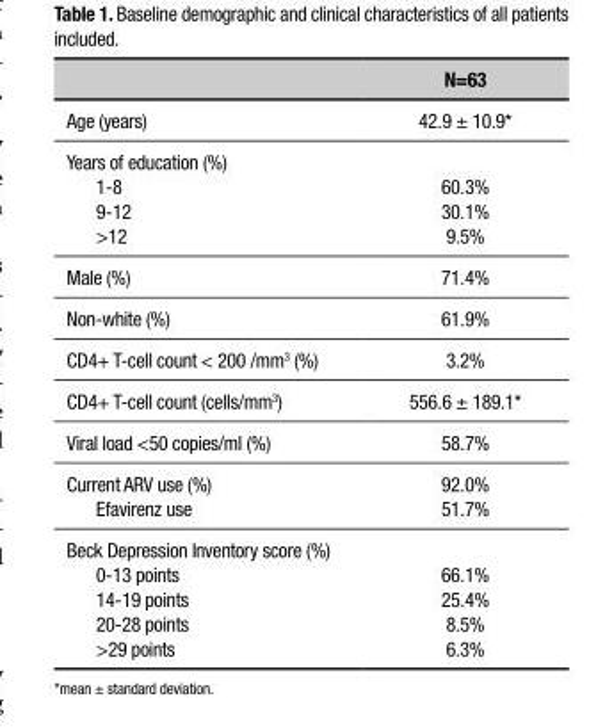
<table><thead><tr><td></td><td>N=63</td></tr></thead><tbody><tr><td>Age (years)</td><td>42.9 ± 10.9*</td></tr><tr><td colspan="2">Years of education (%)</td></tr><tr><td>1-8</td><td>60.3%</td></tr><tr><td>9-12</td><td>30.1%</td></tr><tr><td>&gt;12</td><td>9.5%</td></tr><tr><td>Male (%)</td><td>71.4%</td></tr><tr><td>Non-white (%)</td><td>61.9%</td></tr><tr><td>CD4+ T-cell count &lt; 200 /mm<sup>3</sup> (%)</td><td>3.2%</td></tr><tr><td>CD4+ T-cell count (cells/mm<sup>3</sup>)</td><td>556.6 ± 189.1*</td></tr><tr><td>Viral load &lt;50 copies/ml (%)</td><td>58.7%</td></tr><tr><td>Current ARV use (%)</td><td>92.0%</td></tr><tr><td>Efavirenz use</td><td>51.7%</td></tr><tr><td colspan="2">Beck Depression Inventory score (%)</td></tr><tr><td>0-13 points</td><td>66.1%</td></tr><tr><td>14-19 points</td><td>25.4%</td></tr><tr><td>20-28 points</td><td>8.5%</td></tr><tr><td>&gt;29 points</td><td>6.3%</td></tr></tbody></table>